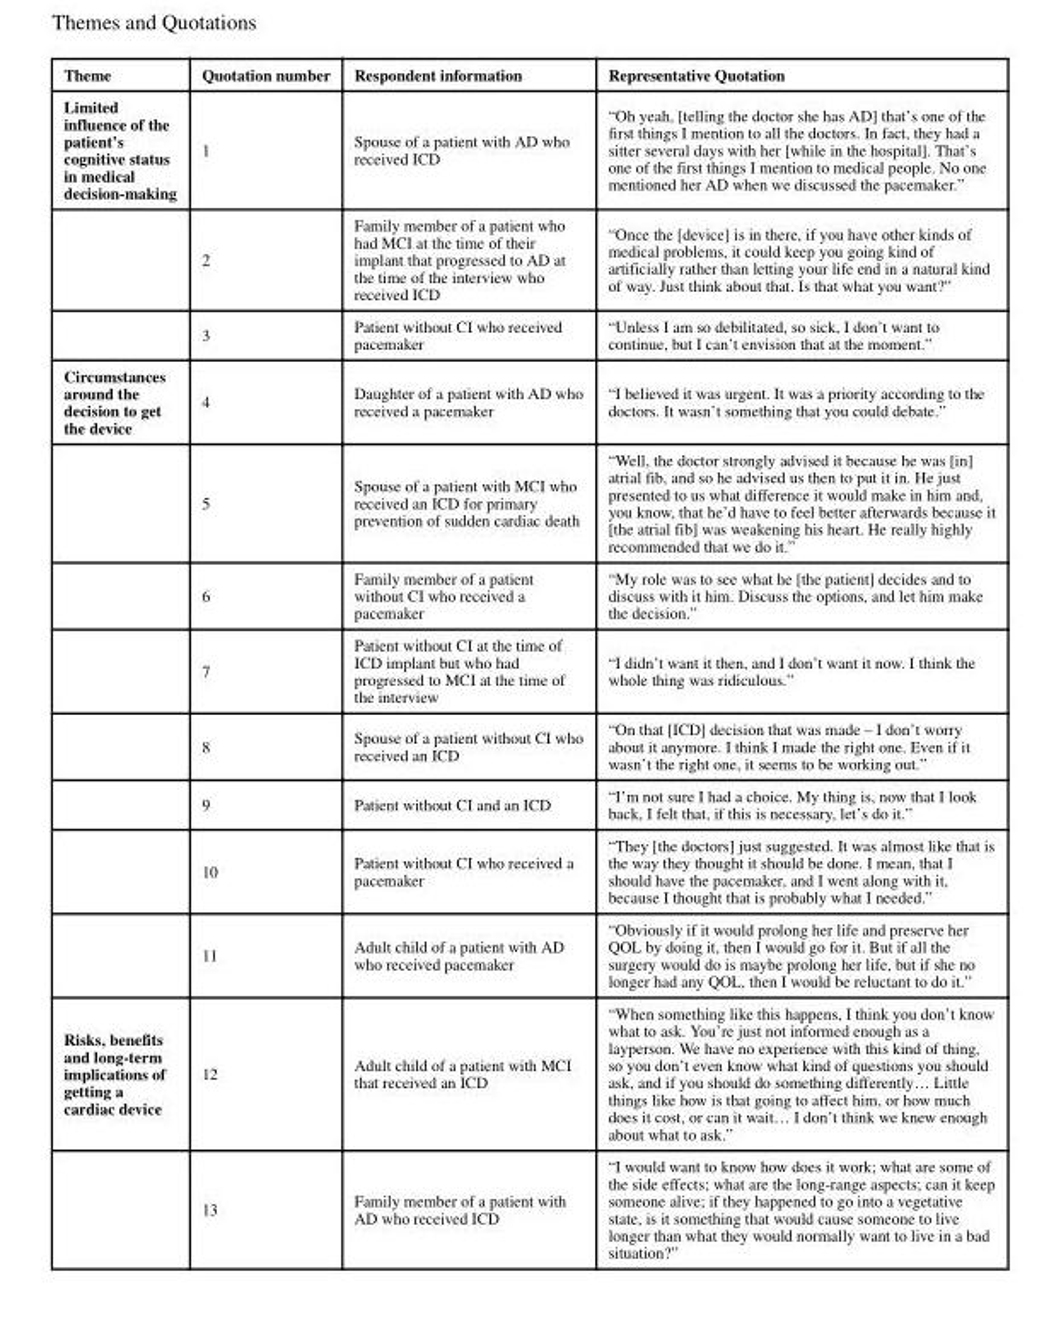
<table><thead><tr><td>Theme</td><td>Quotation number</td><td>Respondent information</td><td>Representative Quotation</td></tr></thead><tbody><tr><td rowspan="3">Limited influence of the patient’s cognitive status in medical decision-making</td><td>1</td><td>Spouse of a patient with AD who received ICD</td><td>“Oh yeah, [telling the doctor she has AD] that’s one of the first things I mention to all the doctors. In fact, they had a sitter several days with her [while in the hospital]. That’s one of the first things I mention to medical people. No one mentioned her AD when we discussed the pacemaker.”</td></tr><tr><td>2</td><td>Family member of a patient who had MCI at the time of their implant that progressed to AD at the time of the interview who received ICD</td><td>“Once the [device] is in there, if you have other kinds of medical problems, it could keep you going kind of artificially rather than letting your life end in a natural kind of way. Just think about that. Is that what you want?”</td></tr><tr><td>3</td><td>Patient without CI who received pacemaker</td><td>“Unless I am so debilitated, so sick, I don’t want to continue, but I can’t envision that at the moment.”</td></tr><tr><td rowspan="8">Circumstances around the decision to get the device</td><td>4</td><td>Daughter of a patient with AD who received a pacemaker</td><td>“I believed it was urgent. It was a priority according to the doctors. It wasn’t something that you could debate.”</td></tr><tr><td>5</td><td>Spouse of a patient with MCI who received an ICD for primary prevention of sudden cardiac death</td><td>“Well, the doctor strongly advised it because he was [in] atrial fib, and so he advised us then to put it in. He just presented to us what difference it would make in him and, you know, that he’d have to feel better afterwards because it [the atrial fib] was weakening his heart. He really highly recommended that we do it.”</td></tr><tr><td>6</td><td>Family member of a patient without CI who received a pacemaker</td><td>“My role was to see what he [the patient] decides and to discuss with it him. Discuss the options, and let him make the decision.”</td></tr><tr><td>7</td><td>Patient without CI at the time of ICD implant but who had progressed to MCI at the time of the interview</td><td>“I didn’t want it then, and I don’t want it now. I think the whole thing was ridiculous.”</td></tr><tr><td>8</td><td>Spouse of a patient without CI who received an ICD</td><td>“On that [ICD] decision that was made – I don’t worry about it anymore. I think I made the right one. Even if it wasn’t the right one, it seems to be working out.”</td></tr><tr><td>9</td><td>Patient without CI and an ICD</td><td>“I’m not sure I had a choice. My thing is, now that I look back, I felt that, if this is necessary, let’s do it.”</td></tr><tr><td>10</td><td>Patient without CI who received a pacemaker</td><td>“They [the doctors] just suggested. It was almost like that is the way they thought it should be done. I mean, that I should have the pacemaker, and I went along with it, because I thought that is probably what I needed.”</td></tr><tr><td>11</td><td>Adult child of a patient with AD who received pacemaker</td><td>“Obviously if it would prolong her life and preserve her QOL by doing it, then I would go for it. But if all the surgery would do is maybe prolong her life, but if she no longer had any QOL, then I would be reluctant to do it.”</td></tr><tr><td rowspan="2">Risks, benefits and long-term implications of getting a cardiac device</td><td>12</td><td>Adult child of a patient with MCI that received an ICD</td><td>“When something like this happens, I think you don’t know what to ask. You’re just not informed enough as a layperson. We have no experience with this kind of thing, so you don’t even know what kind of questions you should ask, and if you should do something differently… Little things like how is that going to affect him, or how much does it cost, or can it wait… I don’t think we knew enough about what to ask.”</td></tr><tr><td>13</td><td>Family member of a patient with AD who received ICD</td><td>“I would want to know how does it work; what are some of the side effects; what are the long-range aspects; can it keep someone alive; if they happened to go into a vegetative state, is it something that would cause someone to live longer than what they would normally want to live in a bad situation?”</td></tr></tbody></table>